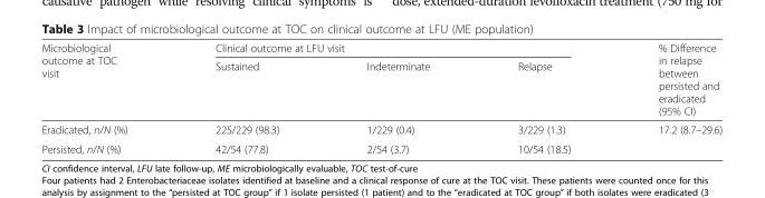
<table><thead><tr><td rowspan="2">Microbiological outcome at TOC visit</td><td colspan="3">Clinical outcome at LFU visit</td><td rowspan="2">% Difference in relapse between persisted and eradicated (95% CI)</td></tr><tr><td>Sustained</td><td>Indeterminate</td><td>Relapse</td></tr></thead><tbody><tr><td>Eradicated, n/N (%)</td><td>225/229 (98.3)</td><td>1/229 (0.4)</td><td>3/229 (1.3)</td><td rowspan="2">17.2 (8.7–29.6)</td></tr><tr><td>Persisted, n/N (%)</td><td>42/54 (77.8)</td><td>2/54 (3.7)</td><td>10/54 (18.5)</td></tr></tbody></table>